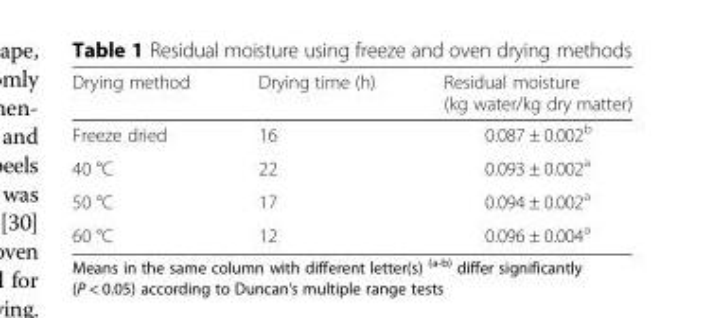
<table><thead><tr><td>Drying method</td><td>Drying time (h)</td><td>Residual moisture (kg water/kg dry matter)</td></tr></thead><tbody><tr><td>Freeze dried</td><td>16</td><td>0.087 ± 0.002<sup>b</sup></td></tr><tr><td>40 °C</td><td>22</td><td>0.093 ± 0.002<sup>a</sup></td></tr><tr><td>50 °C</td><td>17</td><td>0.094 ± 0.002<sup>a</sup></td></tr><tr><td>60 °C</td><td>12</td><td>0.096 ± 0.004<sup>a</sup></td></tr></tbody></table>